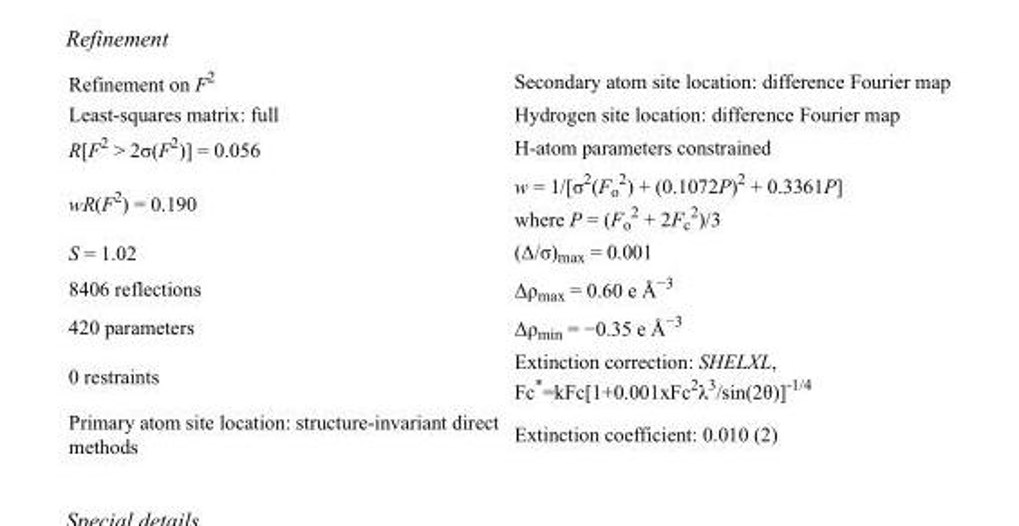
<table><tbody><tr><td>Refinement on F<sup>2</sup></td><td>Secondary atom site location: difference Fourier map</td></tr><tr><td>Least-squares matrix: full</td><td>Hydrogen site location: difference Fourier map</td></tr><tr><td>R[F<sup>2</sup> &gt; 2σ(F<sup>2</sup>)] = 0.056</td><td>H-atom parameters constrained</td></tr><tr><td>wR(F<sup>2</sup>) = 0.190</td><td>w = 1/[σ<sup>2</sup>(F<sub>o</sub> <sup>2</sup>) + (0.1072P)<sup>2</sup> + 0.3361P] where P = (F<sub>o</sub> <sup>2</sup> + 2F<sub>c</sub> <sup>2</sup>)/3</td></tr><tr><td>S = 1.02</td><td>(Δ/σ)<sub>max</sub> = 0.001</td></tr><tr><td>8406 reflections</td><td>Δρ<sub>max</sub> = 0.60 e Å<sup>−3</sup></td></tr><tr><td>420 parameters</td><td>Δρ<sub>min</sub> = −0.35 e Å<sup>−3</sup></td></tr><tr><td>0 restraints</td><td>Extinction correction: SHELXL, Fc*=kFc[1+0.001xFc<sup>2</sup>λ<sup>3</sup>/sin(2θ)]<sup>-1/4</sup></td></tr><tr><td>Primary atom site location: structure-invariant direct methods</td><td>Extinction coefficient: 0.010 (2)</td></tr></tbody></table>